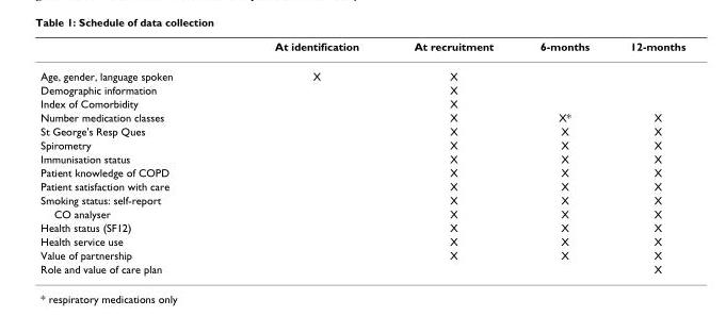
<table><thead><tr><td></td><td>At identification</td><td>At recruitment</td><td>6-months</td><td>12-months</td></tr></thead><tbody><tr><td>Age, gender, language spoken</td><td>X</td><td>X</td><td></td><td></td></tr><tr><td>Demographic information</td><td></td><td>X</td><td></td><td></td></tr><tr><td>Index of Comorbidity</td><td></td><td>X</td><td></td><td></td></tr><tr><td>Number medication classes</td><td></td><td>X</td><td>X*</td><td>X</td></tr><tr><td>St George&#x27;s Resp Ques</td><td></td><td>X</td><td>X</td><td>X</td></tr><tr><td>Spirometry</td><td></td><td>X</td><td>X</td><td>X</td></tr><tr><td>Immunisation status</td><td></td><td>X</td><td>X</td><td>X</td></tr><tr><td>Patient knowledge of COPD</td><td></td><td>X</td><td>X</td><td>X</td></tr><tr><td>Patient satisfaction with care</td><td></td><td>X</td><td>X</td><td>X</td></tr><tr><td>Smoking status: self-report</td><td></td><td>X</td><td>X</td><td>X</td></tr><tr><td>CO analyser</td><td></td><td>X</td><td>X</td><td>X</td></tr><tr><td>Health status (SF12)</td><td></td><td>X</td><td>X</td><td>X</td></tr><tr><td>Health service use</td><td></td><td>X</td><td>X</td><td>X</td></tr><tr><td>Value of partnership</td><td></td><td>X</td><td>X</td><td>X</td></tr><tr><td>Role and value of care plan</td><td></td><td></td><td></td><td>X</td></tr></tbody></table>